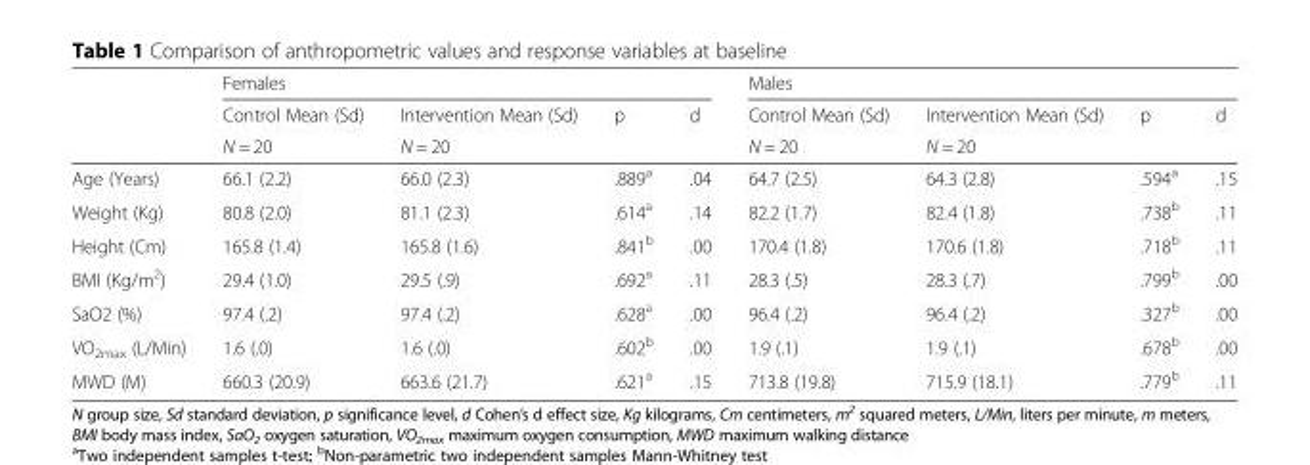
<table><thead><tr><td rowspan="3"></td><td colspan="4">Females</td><td colspan="4">Males</td></tr><tr><td rowspan="2">Control Mean (Sd) N = 20</td><td rowspan="2">Intervention Mean (Sd) N = 20</td><td rowspan="2">p</td><td rowspan="2">d</td><td rowspan="2">Control Mean (Sd) N = 20</td><td rowspan="2">Intervention Mean (Sd) N = 20</td><td rowspan="2">p</td><td rowspan="2">d</td></tr><tr></tr></thead><tbody><tr><td>Age (Years)</td><td>66.1 (2.2)</td><td>66.0 (2.3)</td><td>.889<sup>a</sup></td><td>.04</td><td>64.7 (2.5)</td><td>64.3 (2.8)</td><td>.594<sup>a</sup></td><td>.15</td></tr><tr><td>Weight (Kg)</td><td>80.8 (2.0)</td><td>81.1 (2.3)</td><td>.614<sup>a</sup></td><td>.14</td><td>82.2 (1.7)</td><td>82.4 (1.8)</td><td>.738<sup>b</sup></td><td>.11</td></tr><tr><td>Height (Cm)</td><td>165.8 (1.4)</td><td>165.8 (1.6)</td><td>.841<sup>b</sup></td><td>.00</td><td>170.4 (1.8)</td><td>170.6 (1.8)</td><td>.718<sup>b</sup></td><td>.11</td></tr><tr><td>BMI (Kg/m<sup>2</sup>)</td><td>29.4 (1.0)</td><td>29.5 (.9)</td><td>.692<sup>a</sup></td><td>.11</td><td>28.3 (.5)</td><td>28.3 (.7)</td><td>.799<sup>b</sup></td><td>.00</td></tr><tr><td>SaO2 (%)</td><td>97.4 (.2)</td><td>97.4 (.2)</td><td>.628<sup>a</sup></td><td>.00</td><td>96.4 (.2)</td><td>96.4 (.2)</td><td>.327<sup>b</sup></td><td>.00</td></tr><tr><td>VO<sub>2max</sub> (L/Min)</td><td>1.6 (.0)</td><td>1.6 (.0)</td><td>.602<sup>b</sup></td><td>.00</td><td>1.9 (.1)</td><td>1.9 (.1)</td><td>.678<sup>b</sup></td><td>.00</td></tr><tr><td>MWD (M)</td><td>660.3 (20.9)</td><td>663.6 (21.7)</td><td>.621<sup>a</sup></td><td>.15</td><td>713.8 (19.8)</td><td>715.9 (18.1)</td><td>.779<sup>b</sup></td><td>.11</td></tr></tbody></table>